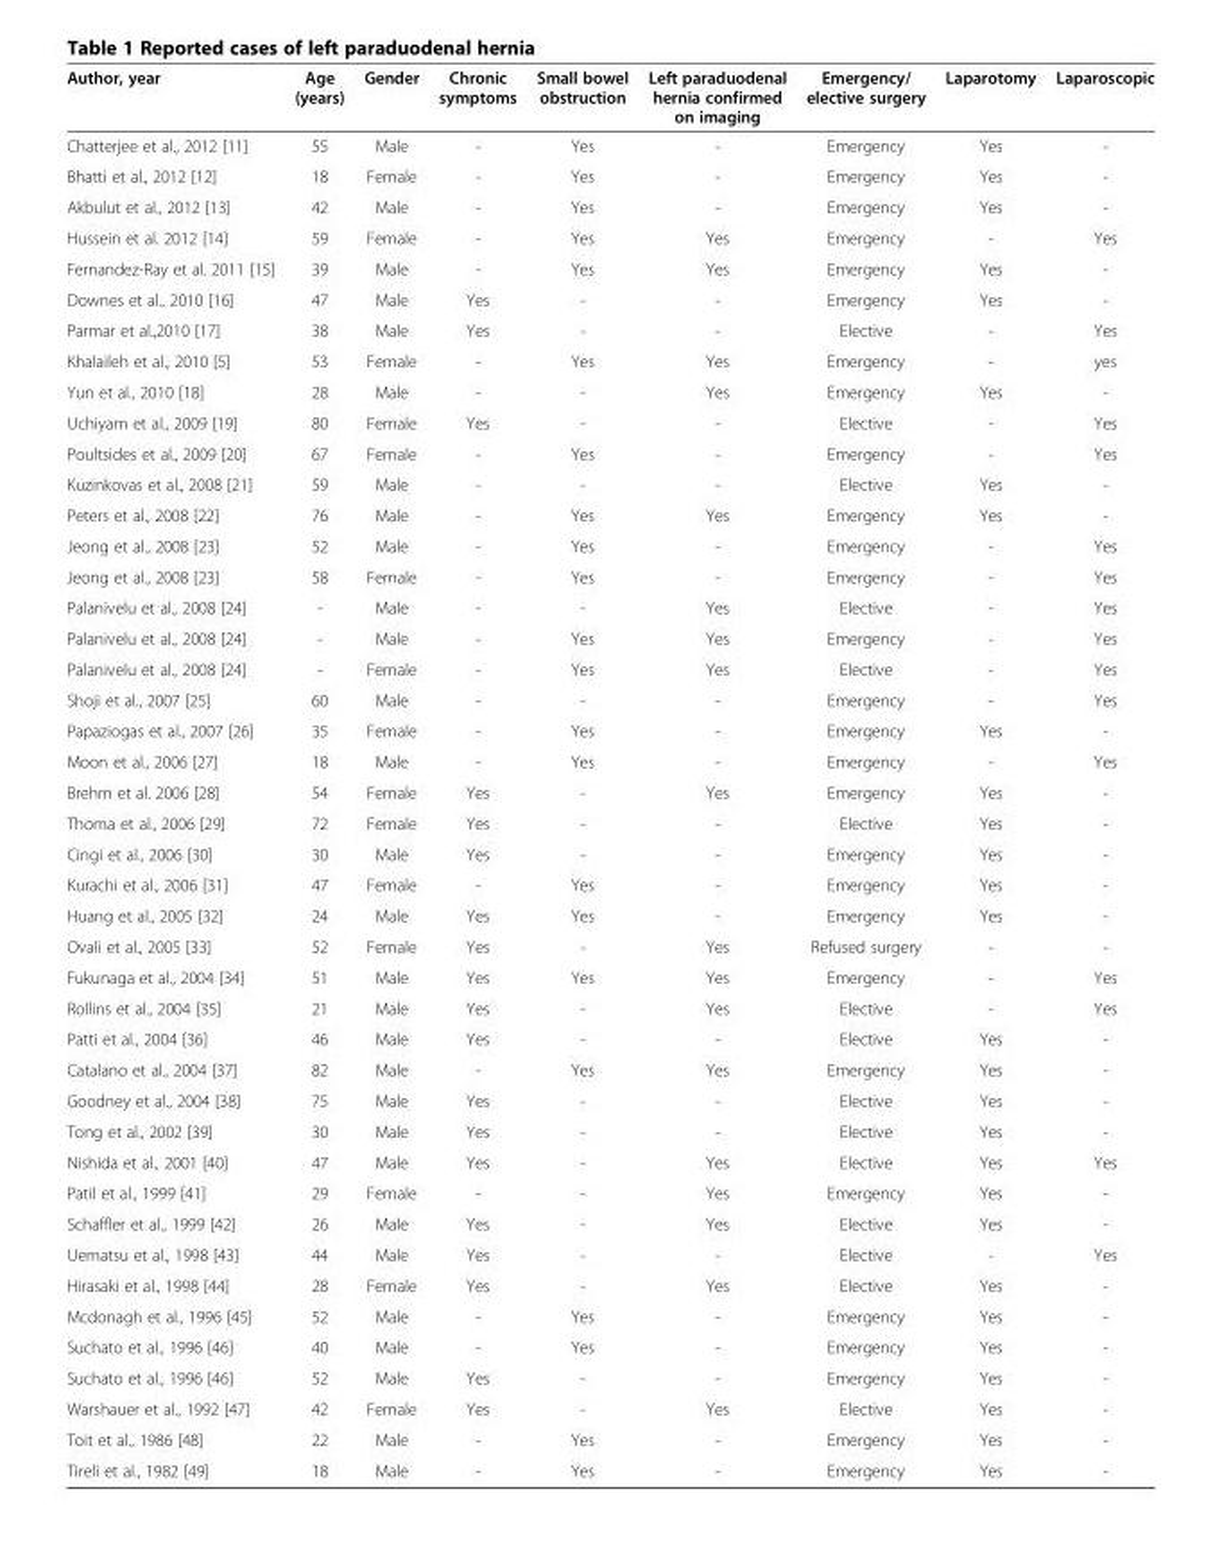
<table><thead><tr><td>Author, year</td><td>Age (years)</td><td>Gender</td><td>Chronic symptoms</td><td>Small bowel obstruction</td><td>Left paraduodenal hernia confirmed on imaging</td><td>Emergency/ elective surgery</td><td>Laparotomy</td><td>Laparoscopic</td></tr></thead><tbody><tr><td>Chatterjee et al., 2012 [11]</td><td>55</td><td>Male</td><td>-</td><td>Yes</td><td>-</td><td>Emergency</td><td>Yes</td><td>-</td></tr><tr><td>Bhatti et al., 2012 [12]</td><td>18</td><td>Female</td><td>-</td><td>Yes</td><td>-</td><td>Emergency</td><td>Yes</td><td>-</td></tr><tr><td>Akbulut et al., 2012 [13]</td><td>42</td><td>Male</td><td>-</td><td>Yes</td><td>-</td><td>Emergency</td><td>Yes</td><td>-</td></tr><tr><td>Hussein et al. 2012 [14]</td><td>59</td><td>Female</td><td>-</td><td>Yes</td><td>Yes</td><td>Emergency</td><td>-</td><td>Yes</td></tr><tr><td>Fernandez-Ray et al. 2011 [15]</td><td>39</td><td>Male</td><td>-</td><td>Yes</td><td>Yes</td><td>Emergency</td><td>Yes</td><td>-</td></tr><tr><td>Downes et al., 2010 [16]</td><td>47</td><td>Male</td><td>Yes</td><td>-</td><td>-</td><td>Emergency</td><td>Yes</td><td>-</td></tr><tr><td>Parmar et al.,2010 [17]</td><td>38</td><td>Male</td><td>Yes</td><td>-</td><td>-</td><td>Elective</td><td>-</td><td>Yes</td></tr><tr><td>Khalaileh et al., 2010 [5]</td><td>53</td><td>Female</td><td>-</td><td>Yes</td><td>Yes</td><td>Emergency</td><td>-</td><td>yes</td></tr><tr><td>Yun et al., 2010 [18]</td><td>28</td><td>Male</td><td>-</td><td>-</td><td>Yes</td><td>Emergency</td><td>Yes</td><td>-</td></tr><tr><td>Uchiyam et al., 2009 [19]</td><td>80</td><td>Female</td><td>Yes</td><td>-</td><td>-</td><td>Elective</td><td>-</td><td>Yes</td></tr><tr><td>Poultsides et al., 2009 [20]</td><td>67</td><td>Female</td><td>-</td><td>Yes</td><td>-</td><td>Emergency</td><td>-</td><td>Yes</td></tr><tr><td>Kuzinkovas et al., 2008 [21]</td><td>59</td><td>Male</td><td>-</td><td>-</td><td>-</td><td>Elective</td><td>Yes</td><td>-</td></tr><tr><td>Peters et al., 2008 [22]</td><td>76</td><td>Male</td><td>-</td><td>Yes</td><td>Yes</td><td>Emergency</td><td>Yes</td><td>-</td></tr><tr><td>Jeong et al., 2008 [23]</td><td>52</td><td>Male</td><td>-</td><td>Yes</td><td>-</td><td>Emergency</td><td>-</td><td>Yes</td></tr><tr><td>Jeong et al., 2008 [23]</td><td>58</td><td>Female</td><td>-</td><td>Yes</td><td>-</td><td>Emergency</td><td>-</td><td>Yes</td></tr><tr><td>Palanivelu et al., 2008 [24]</td><td>-</td><td>Male</td><td>-</td><td>-</td><td>Yes</td><td>Elective</td><td>-</td><td>Yes</td></tr><tr><td>Palanivelu et al., 2008 [24]</td><td>-</td><td>Male</td><td>-</td><td>Yes</td><td>Yes</td><td>Emergency</td><td>-</td><td>Yes</td></tr><tr><td>Palanivelu et al., 2008 [24]</td><td>-</td><td>Female</td><td>-</td><td>Yes</td><td>Yes</td><td>Elective</td><td>-</td><td>Yes</td></tr><tr><td>Shoji et al., 2007 [25]</td><td>60</td><td>Male</td><td>-</td><td>-</td><td>-</td><td>Emergency</td><td>-</td><td>Yes</td></tr><tr><td>Papaziogas et al., 2007 [26]</td><td>35</td><td>Female</td><td>-</td><td>Yes</td><td>-</td><td>Emergency</td><td>Yes</td><td>-</td></tr><tr><td>Moon et al., 2006 [27]</td><td>18</td><td>Male</td><td>-</td><td>Yes</td><td>-</td><td>Emergency</td><td>-</td><td>Yes</td></tr><tr><td>Brehm et al. 2006 [28]</td><td>54</td><td>Female</td><td>Yes</td><td>-</td><td>Yes</td><td>Emergency</td><td>Yes</td><td>-</td></tr><tr><td>Thoma et al., 2006 [29]</td><td>72</td><td>Female</td><td>Yes</td><td>-</td><td>-</td><td>Elective</td><td>Yes</td><td>-</td></tr><tr><td>Cingi et al., 2006 [30]</td><td>30</td><td>Male</td><td>Yes</td><td>-</td><td>-</td><td>Emergency</td><td>Yes</td><td>-</td></tr><tr><td>Kurachi et al., 2006 [31]</td><td>47</td><td>Female</td><td>-</td><td>Yes</td><td>-</td><td>Emergency</td><td>Yes</td><td>-</td></tr><tr><td>Huang et al., 2005 [32]</td><td>24</td><td>Male</td><td>Yes</td><td>Yes</td><td>-</td><td>Emergency</td><td>Yes</td><td>-</td></tr><tr><td>Ovali et al., 2005 [33]</td><td>52</td><td>Female</td><td>Yes</td><td>-</td><td>Yes</td><td>Refused surgery</td><td>-</td><td>-</td></tr><tr><td>Fukunaga et al., 2004 [34]</td><td>51</td><td>Male</td><td>Yes</td><td>Yes</td><td>Yes</td><td>Emergency</td><td>-</td><td>Yes</td></tr><tr><td>Rollins et al., 2004 [35]</td><td>21</td><td>Male</td><td>Yes</td><td>-</td><td>Yes</td><td>Elective</td><td>-</td><td>Yes</td></tr><tr><td>Patti et al., 2004 [36]</td><td>46</td><td>Male</td><td>Yes</td><td>-</td><td>-</td><td>Elective</td><td>Yes</td><td>-</td></tr><tr><td>Catalano et al., 2004 [37]</td><td>82</td><td>Male</td><td>-</td><td>Yes</td><td>Yes</td><td>Emergency</td><td>Yes</td><td>-</td></tr><tr><td>Goodney et al., 2004 [38]</td><td>75</td><td>Male</td><td>Yes</td><td>-</td><td>-</td><td>Elective</td><td>Yes</td><td>-</td></tr><tr><td>Tong et al., 2002 [39]</td><td>30</td><td>Male</td><td>Yes</td><td>-</td><td>-</td><td>Elective</td><td>Yes</td><td>-</td></tr><tr><td>Nishida et al., 2001 [40]</td><td>47</td><td>Male</td><td>Yes</td><td>-</td><td>Yes</td><td>Elective</td><td>Yes</td><td>Yes</td></tr><tr><td>Patil et al., 1999 [41]</td><td>29</td><td>Female</td><td>-</td><td>-</td><td>Yes</td><td>Emergency</td><td>Yes</td><td>-</td></tr><tr><td>Schaffler et al., 1999 [42]</td><td>26</td><td>Male</td><td>Yes</td><td>-</td><td>Yes</td><td>Elective</td><td>Yes</td><td>-</td></tr><tr><td>Uematsu et al., 1998 [43]</td><td>44</td><td>Male</td><td>Yes</td><td>-</td><td>-</td><td>Elective</td><td>-</td><td>Yes</td></tr><tr><td>Hirasaki et al., 1998 [44]</td><td>28</td><td>Female</td><td>Yes</td><td>-</td><td>Yes</td><td>Elective</td><td>Yes</td><td>-</td></tr><tr><td>Mcdonagh et al., 1996 [45]</td><td>52</td><td>Male</td><td>-</td><td>Yes</td><td>-</td><td>Emergency</td><td>Yes</td><td>-</td></tr><tr><td>Suchato et al., 1996 [46]</td><td>40</td><td>Male</td><td>-</td><td>Yes</td><td>-</td><td>Emergency</td><td>Yes</td><td>-</td></tr><tr><td>Suchato et al., 1996 [46]</td><td>52</td><td>Male</td><td>Yes</td><td>-</td><td>-</td><td>Emergency</td><td>Yes</td><td>-</td></tr><tr><td>Warshauer et al., 1992 [47]</td><td>42</td><td>Female</td><td>Yes</td><td>-</td><td>Yes</td><td>Elective</td><td>Yes</td><td>-</td></tr><tr><td>Toit et al., 1986 [48]</td><td>22</td><td>Male</td><td>-</td><td>Yes</td><td>-</td><td>Emergency</td><td>Yes</td><td>-</td></tr><tr><td>Tireli et al., 1982 [49]</td><td>18</td><td>Male</td><td>-</td><td>Yes</td><td>-</td><td>Emergency</td><td>Yes</td><td>-</td></tr></tbody></table>